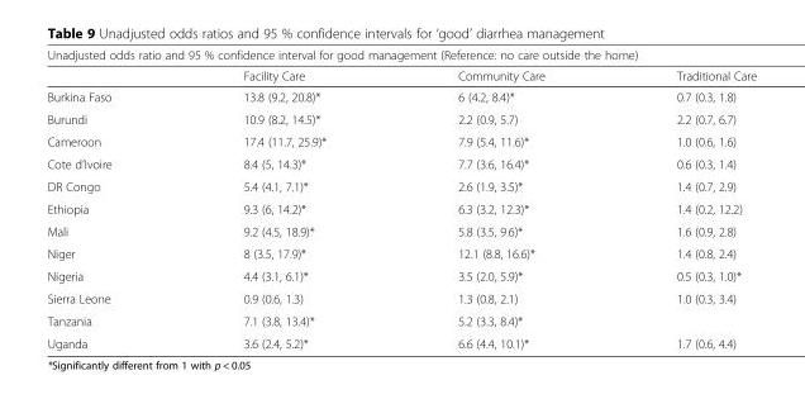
<table><thead><tr><td colspan="4">Unadjusted odds ratio and 95 % confidence interval for good management (Reference: no care outside the home)</td></tr><tr><td></td><td>Facility Care</td><td>Community Care</td><td>Traditional Care</td></tr></thead><tbody><tr><td>Burkina Faso</td><td>13.8 (9.2, 20.8)*</td><td>6 (4.2, 8.4)*</td><td>0.7 (0.3, 1.8)</td></tr><tr><td>Burundi</td><td>10.9 (8.2, 14.5)*</td><td>2.2 (0.9, 5.7)</td><td>2.2 (0.7, 6.7)</td></tr><tr><td>Cameroon</td><td>17.4 (11.7, 25.9)*</td><td>7.9 (5.4, 11.6)*</td><td>1.0 (0.6, 1.6)</td></tr><tr><td>Cote d’Ivoire</td><td>8.4 (5, 14.3)*</td><td>7.7 (3.6, 16.4)*</td><td>0.6 (0.3, 1.4)</td></tr><tr><td>DR Congo</td><td>5.4 (4.1, 7.1)*</td><td>2.6 (1.9, 3.5)*</td><td>1.4 (0.7, 2.9)</td></tr><tr><td>Ethiopia</td><td>9.3 (6, 14.2)*</td><td>6.3 (3.2, 12.3)*</td><td>1.4 (0.2, 12.2)</td></tr><tr><td>Mali</td><td>9.2 (4.5, 18.9)*</td><td>5.8 (3.5, 9.6)*</td><td>1.6 (0.9, 2.8)</td></tr><tr><td>Niger</td><td>8 (3.5, 17.9)*</td><td>12.1 (8.8, 16.6)*</td><td>1.4 (0.8, 2.4)</td></tr><tr><td>Nigeria</td><td>4.4 (3.1, 6.1)*</td><td>3.5 (2.0, 5.9)*</td><td>0.5 (0.3, 1.0)*</td></tr><tr><td>Sierra Leone</td><td>0.9 (0.6, 1.3)</td><td>1.3 (0.8, 2.1)</td><td>1.0 (0.3, 3.4)</td></tr><tr><td>Tanzania</td><td>7.1 (3.8, 13.4)*</td><td>5.2 (3.3, 8.4)*</td><td></td></tr><tr><td>Uganda</td><td>3.6 (2.4, 5.2)*</td><td>6.6 (4.4, 10.1)*</td><td>1.7 (0.6, 4.4)</td></tr></tbody></table>